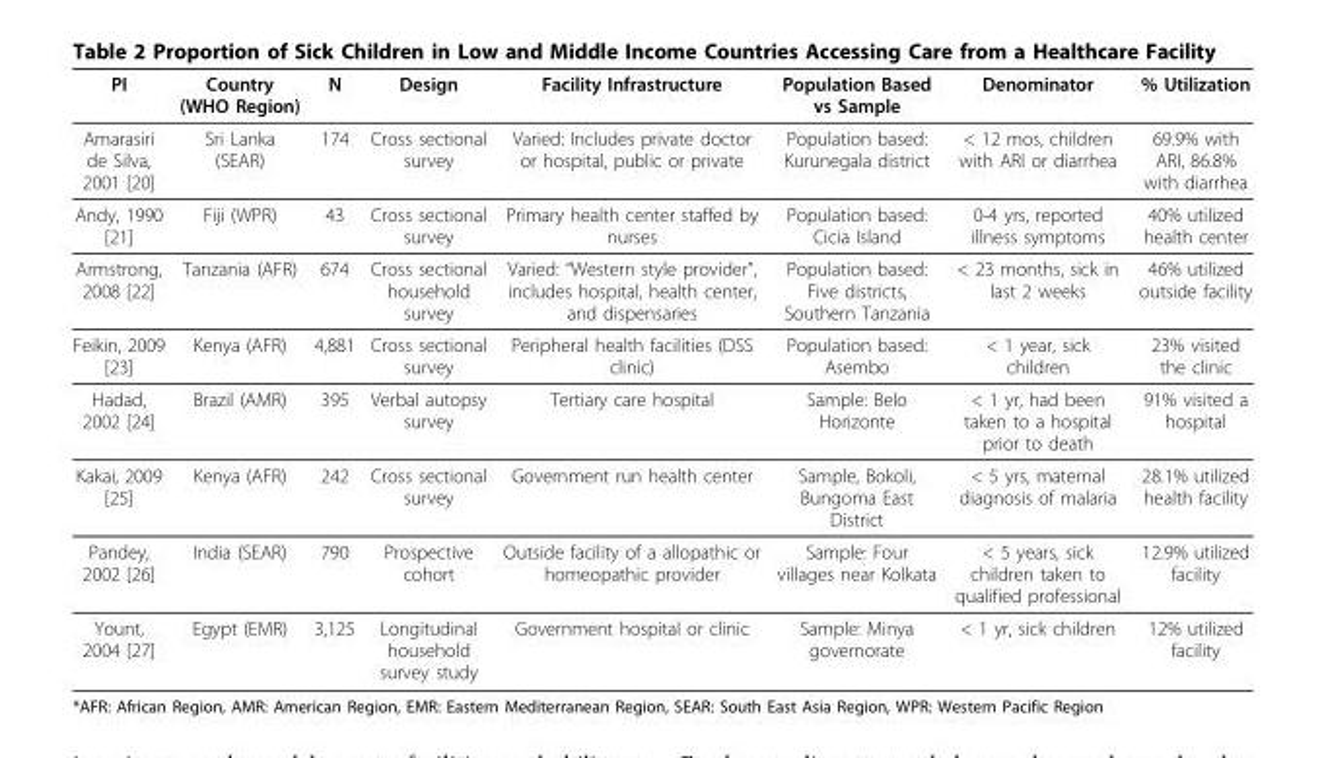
<table><thead><tr><td>PI</td><td>Country (WHO Region)</td><td>N</td><td>Design</td><td>Facility Infrastructure</td><td>Population Based vs Sample</td><td>Denominator</td><td>% Utilization</td></tr></thead><tbody><tr><td>Amarasiri de Silva, 2001 [20]</td><td>Sri Lanka (SEAR)</td><td>174</td><td>Cross sectional survey</td><td>Varied: Includes private doctor or hospital, public or private</td><td>Population based: Kurunegala district</td><td>&lt; 12 mos, children with ARI or diarrhea</td><td>69.9% with ARI, 86.8% with diarrhea</td></tr><tr><td>Andy, 1990 [21]</td><td>Fiji (WPR)</td><td>43</td><td>Cross sectional survey</td><td>Primary health center staffed by nurses</td><td>Population based: Cicia Island</td><td>0-4 yrs, reported illness symptoms</td><td>40% utilized health center</td></tr><tr><td>Armstrong, 2008 [22]</td><td>Tanzania (AFR)</td><td>674</td><td>Cross sectional household survey</td><td>Varied: “Western style provider”, includes hospital, health center, and dispensaries</td><td>Population based: Five districts, Southern Tanzania</td><td>&lt; 23 months, sick in last 2 weeks</td><td>46% utilized outside facility</td></tr><tr><td>Feikin, 2009 [23]</td><td>Kenya (AFR)</td><td>4,881</td><td>Cross sectional survey</td><td>Peripheral health facilities (DSS clinic)</td><td>Population based: Asembo</td><td>&lt; 1 year, sick children</td><td>23% visited the clinic</td></tr><tr><td>Hadad, 2002 [24]</td><td>Brazil (AMR)</td><td>395</td><td>Verbal autopsy survey</td><td>Tertiary care hospital</td><td>Sample: Belo Horizonte</td><td>&lt; 1 yr, had been taken to a hospital prior to death</td><td>91% visited a hospital</td></tr><tr><td>Kakai, 2009 [25]</td><td>Kenya (AFR)</td><td>242</td><td>Cross sectional survey</td><td>Government run health center</td><td>Sample, Bokoli, Bungoma East District</td><td>&lt; 5 yrs, maternal diagnosis of malaria</td><td>28.1% utilized health facility</td></tr><tr><td>Pandey, 2002 [26]</td><td>India (SEAR)</td><td>790</td><td>Prospective cohort</td><td>Outside facility of a allopathic or homeopathic provider</td><td>Sample: Four villages near Kolkata</td><td>&lt; 5 years, sick children taken to qualified professional</td><td>12.9% utilized facility</td></tr><tr><td>Yount, 2004 [27]</td><td>Egypt (EMR)</td><td>3,125</td><td>Longitudinal household survey study</td><td>Government hospital or clinic</td><td>Sample: Minya governorate</td><td>&lt; 1 yr, sick children</td><td>12% utilized facility</td></tr></tbody></table>